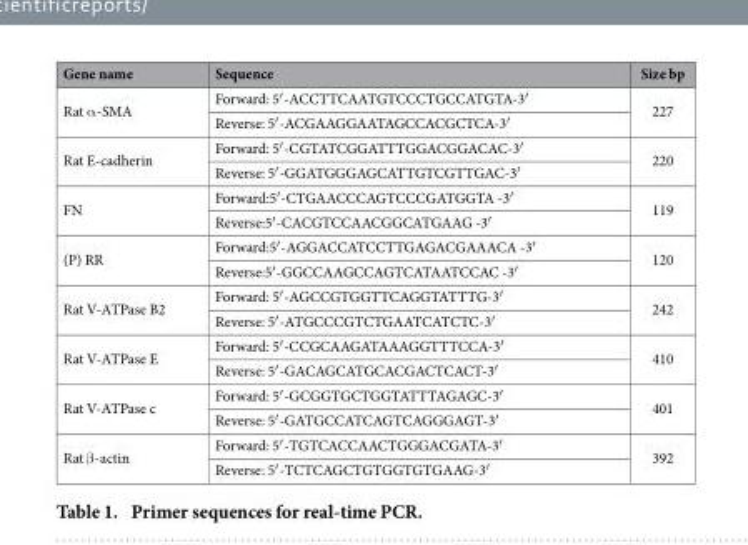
<table><thead><tr><td>Gene name</td><td>Sequence</td><td>Size bp</td></tr></thead><tbody><tr><td rowspan="2">Rat α -SMA</td><td>Forward: 5′ -ACCTTCAATGTCCCTGCCATGTA-3′</td><td rowspan="2">227</td></tr><tr><td>Reverse: 5′ -ACGAAGGAATAGCCACGCTCA-3′</td></tr><tr><td rowspan="2">Rat E-cadherin</td><td>Forward: 5′ -CGTATCGGATTTGGACGGACAC-3′</td><td rowspan="2">220</td></tr><tr><td>Reverse: 5′ -GGATGGGAGCATTGTCGTTGAC-3′</td></tr><tr><td rowspan="2">FN</td><td>Forward:5′ -CTGAACCCAGTCCCGATGGTA -3′</td><td rowspan="2">119</td></tr><tr><td>Reverse:5′ -CACGTCCAACGGCATGAAG -3′</td></tr><tr><td rowspan="2">(P) RR</td><td>Forward:5′ -AGGACCATCCTTGAGACGAAACA -3′</td><td rowspan="2">120</td></tr><tr><td>Reverse:5′ -GGCCAAGCCAGTCATAATCCAC -3′</td></tr><tr><td rowspan="2">Rat V-ATPase B2</td><td>Forward: 5′ -AGCCGTGGTTCAGGTATTTG-3′</td><td rowspan="2">242</td></tr><tr><td>Reverse: 5′ -ATGCCCGTCTGAATCATCTC-3′</td></tr><tr><td rowspan="2">Rat V-ATPase E</td><td>Forward: 5′ -CCGCAAGATAAAGGTTTCCA-3′</td><td rowspan="2">410</td></tr><tr><td>Reverse: 5′ -GACAGCATGCACGACTCACT-3′</td></tr><tr><td rowspan="2">Rat V-ATPase c</td><td>Forward: 5′ -GCGGTGCTGGTATTTAGAGC-3′</td><td rowspan="2">401</td></tr><tr><td>Reverse: 5′ -GATGCCATCAGTCAGGGAGT-3′</td></tr><tr><td rowspan="2">Rat β -actin</td><td>Forward: 5′ -TGTCACCAACTGGGACGATA-3′</td><td rowspan="2">392</td></tr><tr><td>Reverse: 5′ -TCTCAGCTGTGGTGTGAAG-3′</td></tr></tbody></table>